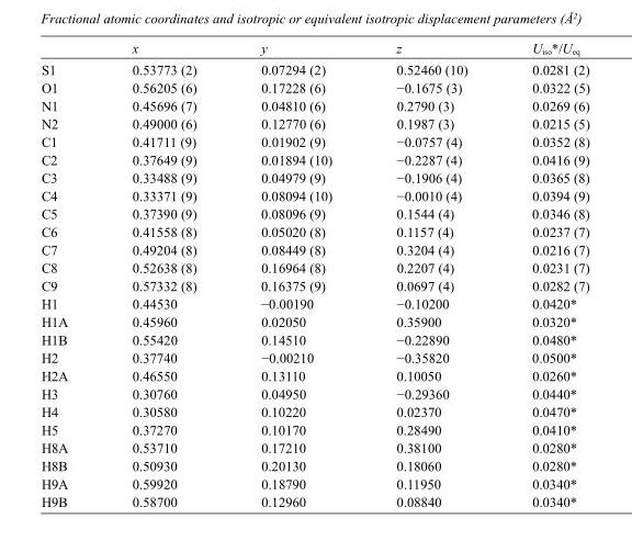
<table><thead><tr><td></td><td>x</td><td>y</td><td>z</td><td>U<sub>iso</sub>*/U<sub>eq</sub></td></tr></thead><tbody><tr><td>S1</td><td>0.53773 (2)</td><td>0.07294 (2)</td><td>0.52460 (10)</td><td>0.0281 (2)</td></tr><tr><td>O1</td><td>0.56205 (6)</td><td>0.17228 (6)</td><td>−0.1675 (3)</td><td>0.0322 (5)</td></tr><tr><td>N1</td><td>0.45696 (7)</td><td>0.04810 (6)</td><td>0.2790 (3)</td><td>0.0269 (6)</td></tr><tr><td>N2</td><td>0.49000 (6)</td><td>0.12770 (6)</td><td>0.1987 (3)</td><td>0.0215 (5)</td></tr><tr><td>C1</td><td>0.41711 (9)</td><td>0.01902 (9)</td><td>−0.0757 (4)</td><td>0.0352 (8)</td></tr><tr><td>C2</td><td>0.37649 (9)</td><td>0.01894 (10)</td><td>−0.2287 (4)</td><td>0.0416 (9)</td></tr><tr><td>C3</td><td>0.33488 (9)</td><td>0.04979 (9)</td><td>−0.1906 (4)</td><td>0.0365 (8)</td></tr><tr><td>C4</td><td>0.33371 (9)</td><td>0.08094 (10)</td><td>−0.0010 (4)</td><td>0.0394 (9)</td></tr><tr><td>C5</td><td>0.37390 (9)</td><td>0.08096 (9)</td><td>0.1544 (4)</td><td>0.0346 (8)</td></tr><tr><td>C6</td><td>0.41558 (8)</td><td>0.05020 (8)</td><td>0.1157 (4)</td><td>0.0237 (7)</td></tr><tr><td>C7</td><td>0.49204 (8)</td><td>0.08449 (8)</td><td>0.3204 (4)</td><td>0.0216 (7)</td></tr><tr><td>C8</td><td>0.52638 (8)</td><td>0.16964 (8)</td><td>0.2207 (4)</td><td>0.0231 (7)</td></tr><tr><td>C9</td><td>0.57332 (8)</td><td>0.16375 (9)</td><td>0.0697 (4)</td><td>0.0282 (7)</td></tr><tr><td>H1</td><td>0.44530</td><td>−0.00190</td><td>−0.10200</td><td>0.0420*</td></tr><tr><td>H1A</td><td>0.45960</td><td>0.02050</td><td>0.35900</td><td>0.0320*</td></tr><tr><td>H1B</td><td>0.55420</td><td>0.14510</td><td>−0.22890</td><td>0.0480*</td></tr><tr><td>H2</td><td>0.37740</td><td>−0.00210</td><td>−0.35820</td><td>0.0500*</td></tr><tr><td>H2A</td><td>0.46550</td><td>0.13110</td><td>0.10050</td><td>0.0260*</td></tr><tr><td>H3</td><td>0.30760</td><td>0.04950</td><td>−0.29360</td><td>0.0440*</td></tr><tr><td>H4</td><td>0.30580</td><td>0.10220</td><td>0.02370</td><td>0.0470*</td></tr><tr><td>H5</td><td>0.37270</td><td>0.10170</td><td>0.28490</td><td>0.0410*</td></tr><tr><td>H8A</td><td>0.53710</td><td>0.17210</td><td>0.38100</td><td>0.0280*</td></tr><tr><td>H8B</td><td>0.50930</td><td>0.20130</td><td>0.18060</td><td>0.0280*</td></tr><tr><td>H9A</td><td>0.59920</td><td>0.18790</td><td>0.11950</td><td>0.0340*</td></tr><tr><td>H9B</td><td>0.58700</td><td>0.12960</td><td>0.08840</td><td>0.0340*</td></tr></tbody></table>